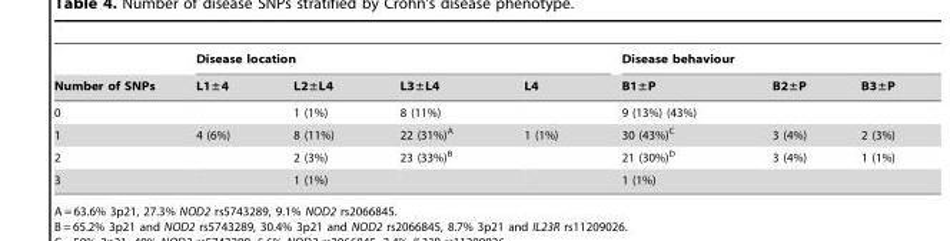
<table><thead><tr><td rowspan="2">Number of SNPs</td><td colspan="4">Disease location</td><td colspan="3">Disease behaviour</td></tr><tr><td>L1±4</td><td>L2±L4</td><td>L3±L4</td><td>L4</td><td>B1±P</td><td>B2±P</td><td>B3±P</td></tr></thead><tbody><tr><td>0</td><td></td><td>1 (1%)</td><td>8 (11%)</td><td></td><td>9 (13%) (43%)</td><td></td><td></td></tr><tr><td>1</td><td>4 (6%)</td><td>8 (11%)</td><td>22 (31%)<sup>A</sup></td><td>1 (1%)</td><td>30 (43%)<sup>C</sup></td><td>3 (4%)</td><td>2 (3%)</td></tr><tr><td>2</td><td></td><td>2 (3%)</td><td>23 (33%)<sup>B</sup></td><td></td><td>21 (30%)<sup>D</sup></td><td>3 (4%)</td><td>1 (1%)</td></tr><tr><td>3</td><td></td><td>1 (1%)</td><td></td><td></td><td>1 (1%)</td><td></td><td></td></tr></tbody></table>